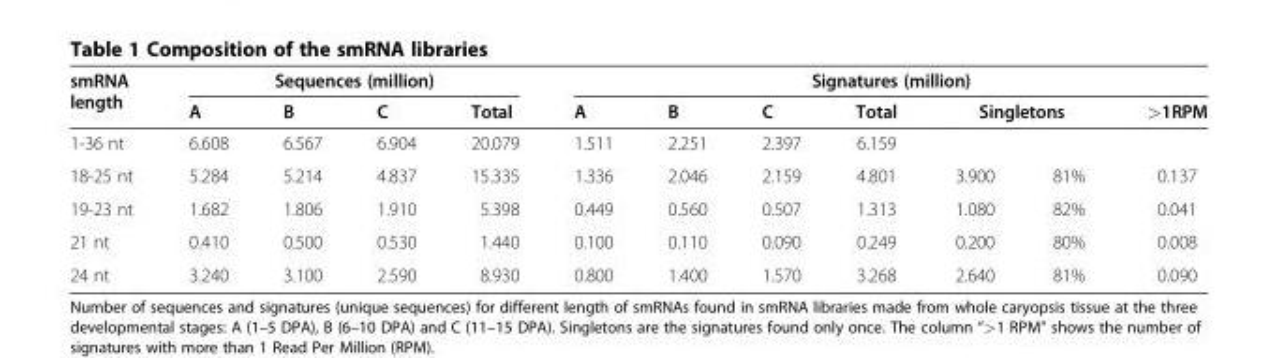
<table><thead><tr><td rowspan="3">smRNA length 1-36 nt</td><td colspan="4">Sequences (million)</td><td colspan="7">Signatures (million)</td></tr><tr><td rowspan="2">A 6.608</td><td rowspan="2">B 6.567</td><td rowspan="2">C 6.904</td><td rowspan="2">Total 20.079</td><td rowspan="2">A 1.511</td><td rowspan="2">B 2.251</td><td rowspan="2">C 2.397</td><td rowspan="2">Total 6.159</td><td colspan="2">Singletons</td><td rowspan="2">&gt;1RPM</td></tr><tr><td></td><td></td></tr></thead><tbody><tr><td>18-25 nt</td><td>5.284</td><td>5.214</td><td>4.837</td><td>15.335</td><td>1.336</td><td>2.046</td><td>2.159</td><td>4.801</td><td>3.900</td><td>81%</td><td>0.137</td></tr><tr><td>19-23 nt</td><td>1.682</td><td>1.806</td><td>1.910</td><td>5.398</td><td>0.449</td><td>0.560</td><td>0.507</td><td>1.313</td><td>1.080</td><td>82%</td><td>0.041</td></tr><tr><td>21 nt</td><td>0.410</td><td>0.500</td><td>0.530</td><td>1.440</td><td>0.100</td><td>0.110</td><td>0.090</td><td>0.249</td><td>0.200</td><td>80%</td><td>0.008</td></tr><tr><td>24 nt</td><td>3.240</td><td>3.100</td><td>2.590</td><td>8.930</td><td>0.800</td><td>1.400</td><td>1.570</td><td>3.268</td><td>2.640</td><td>81%</td><td>0.090</td></tr></tbody></table>